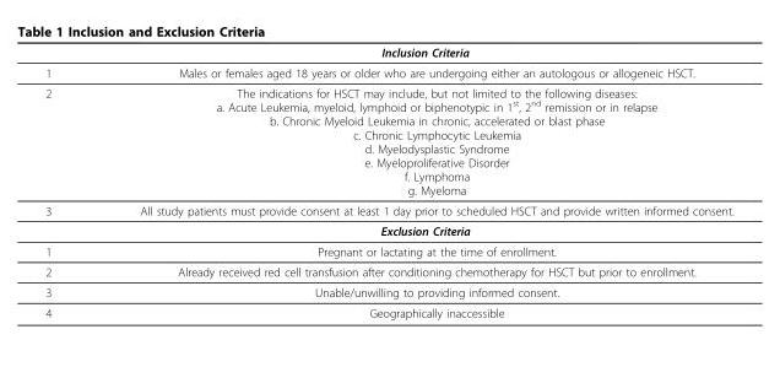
<table><thead><tr><td></td><td>Inclusion Criteria</td></tr></thead><tbody><tr><td>1</td><td>Males or females aged 18 years or older who are undergoing either an autologous or allogeneic HSCT.</td></tr><tr><td>2</td><td>The indications for HSCT may include, but not limited to the following diseases: a. Acute Leukemia, myeloid, lymphoid or biphenotypic in 1<sup>st</sup>, 2<sup>nd</sup> remission or in relapse b. Chronic Myeloid Leukemia in chronic, accelerated or blast phase c. Chronic Lymphocytic Leukemia d. Myelodysplastic Syndrome e. Myeloproliferative Disorder f. Lymphoma g. Myeloma</td></tr><tr><td rowspan="2">3</td><td>All study patients must provide consent at least 1 day prior to scheduled HSCT and provide written informed consent.</td></tr><tr><td>Exclusion Criteria</td></tr><tr><td>1</td><td>Pregnant or lactating at the time of enrollment.</td></tr><tr><td>2</td><td>Already received red cell transfusion after conditioning chemotherapy for HSCT but prior to enrollment.</td></tr><tr><td>3</td><td>Unable/unwilling to providing informed consent.</td></tr><tr><td>4</td><td>Geographically inaccessible</td></tr></tbody></table>